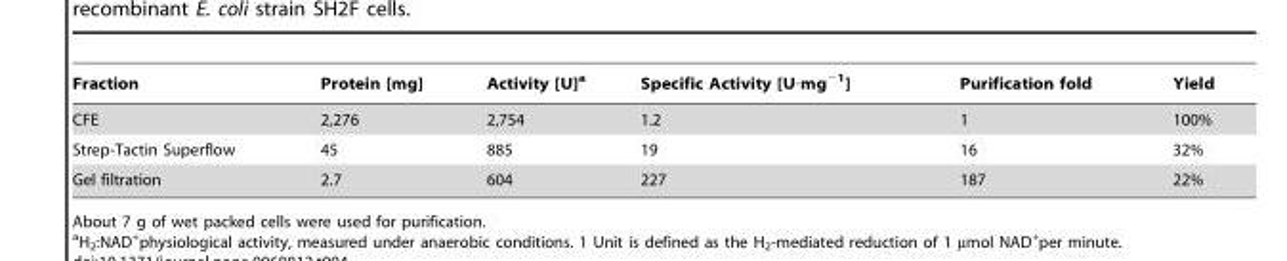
<table><thead><tr><td>Fraction</td><td>Protein [mg]</td><td>Activity [U]<sup>a</sup></td><td>Specific Activity [U·mg<sup>−1</sup>]</td><td>Purification fold</td><td>Yield</td></tr></thead><tbody><tr><td>CFE</td><td>2,276</td><td>2,754</td><td>1.2</td><td>1</td><td>100%</td></tr><tr><td>Strep-Tactin Superflow</td><td>45</td><td>885</td><td>19</td><td>16</td><td>32%</td></tr><tr><td>Gel filtration</td><td>2.7</td><td>604</td><td>227</td><td>187</td><td>22%</td></tr></tbody></table>